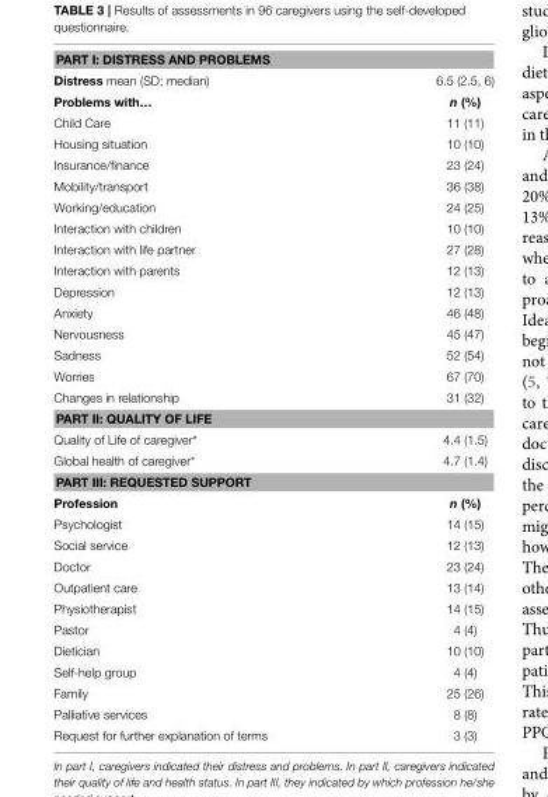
<table><tbody><tr><td colspan="2">PART I: DISTRESS AND PROBLEMS</td></tr><tr><td>Distress mean (SD; median)</td><td>6.5 (2.5, 6)</td></tr><tr><td>Problems with…</td><td>n (%)</td></tr><tr><td>Child Care</td><td>11 (11)</td></tr><tr><td>Housing situation</td><td>10 (10)</td></tr><tr><td>Insurance/finance</td><td>23 (24)</td></tr><tr><td>Mobility/transport</td><td>36 (38)</td></tr><tr><td>Working/education</td><td>24 (25)</td></tr><tr><td>Interaction with children</td><td>10 (10)</td></tr><tr><td>Interaction with life partner</td><td>27 (28)</td></tr><tr><td>Interaction with parents</td><td>12 (13)</td></tr><tr><td>Depression</td><td>12 (13)</td></tr><tr><td>Anxiety</td><td>46 (48)</td></tr><tr><td>Nervousness</td><td>45 (47)</td></tr><tr><td>Sadness</td><td>52 (54)</td></tr><tr><td>Worries</td><td>67 (70)</td></tr><tr><td>Changes in relationship</td><td>31 (32)</td></tr><tr><td colspan="2">PART II: QUALITY OF LIFE</td></tr><tr><td>Quality of Life of caregiver*</td><td>4.4 (1.5)</td></tr><tr><td>Global health of caregiver*</td><td>4.7 (1.4)</td></tr><tr><td colspan="2">PART III: REQUESTED SUPPORT</td></tr><tr><td>Profession</td><td>n (%)</td></tr><tr><td>Psychologist</td><td>14 (15)</td></tr><tr><td>Social service</td><td>12 (13)</td></tr><tr><td>Doctor</td><td>23 (24)</td></tr><tr><td>Outpatient care</td><td>13 (14)</td></tr><tr><td>Physiotherapist</td><td>14 (15)</td></tr><tr><td>Pastor</td><td>4 (4)</td></tr><tr><td>Dietician</td><td>10 (10)</td></tr><tr><td>Self-help group</td><td>4 (4)</td></tr><tr><td>Family</td><td>25 (26)</td></tr><tr><td>Palliative services</td><td>8 (8)</td></tr><tr><td>Request for further explanation of terms</td><td>3 (3)</td></tr></tbody></table>